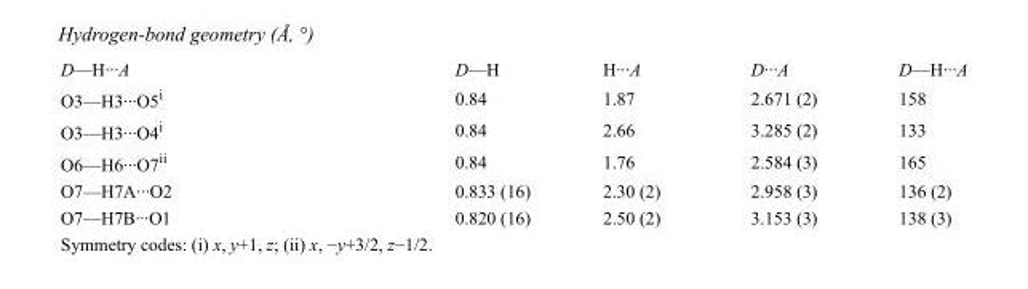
<table><tbody><tr><td>D—H···A</td><td>D—H</td><td>H···A</td><td>D···A</td><td>D—H···A</td></tr><tr><td>O3—H3···O5<sup>i</sup></td><td>0.84</td><td>1.87</td><td>2.671 (2)</td><td>158</td></tr><tr><td>O3—H3···O4<sup>i</sup></td><td>0.84</td><td>2.66</td><td>3.285 (2)</td><td>133</td></tr><tr><td>O6—H6···O7<sup>ii</sup></td><td>0.84</td><td>1.76</td><td>2.584 (3)</td><td>165</td></tr><tr><td>O7—H7A···O2</td><td>0.833 (16)</td><td>2.30 (2)</td><td>2.958 (3)</td><td>136 (2)</td></tr><tr><td>O7—H7B···O1</td><td>0.820 (16)</td><td>2.50 (2)</td><td>3.153 (3)</td><td>138 (3)</td></tr></tbody></table>